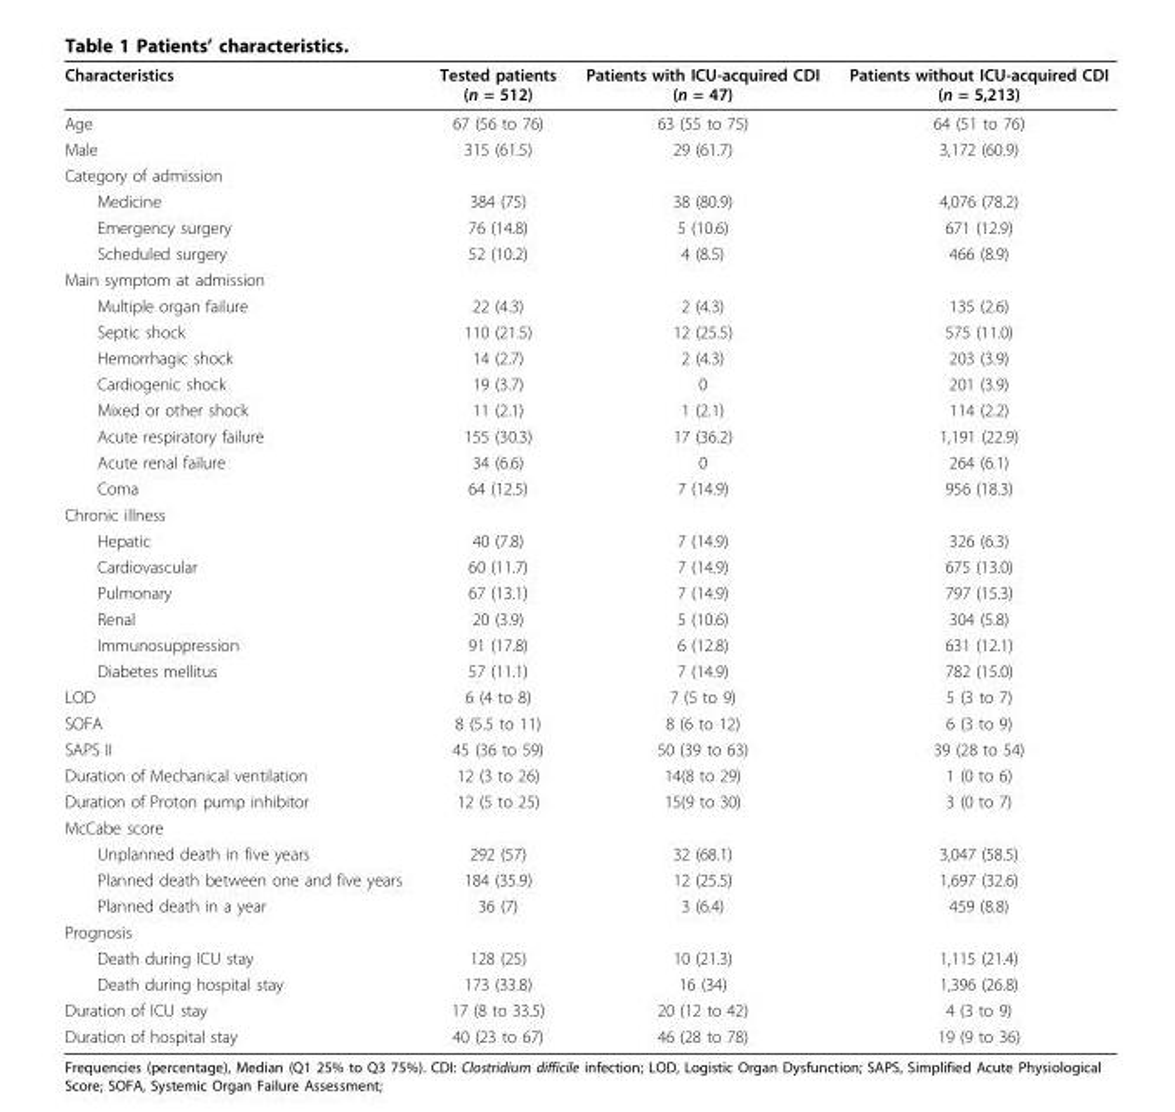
<table><thead><tr><td>Characteristics</td><td>Tested patients (n = 512)</td><td>Patients with ICU-acquired CDI (n = 47)</td><td>Patients without ICU-acquired CDI (n = 5,213)</td></tr></thead><tbody><tr><td>Age</td><td>67 (56 to 76)</td><td>63 (55 to 75)</td><td>64 (51 to 76)</td></tr><tr><td>Male</td><td>315 (61.5)</td><td>29 (61.7)</td><td>3,172 (60.9)</td></tr><tr><td colspan="4">Category of admission</td></tr><tr><td>Medicine</td><td>384 (75)</td><td>38 (80.9)</td><td>4,076 (78.2)</td></tr><tr><td>Emergency surgery</td><td>76 (14.8)</td><td>5 (10.6)</td><td>671 (12.9)</td></tr><tr><td>Scheduled surgery</td><td>52 (10.2)</td><td>4 (8.5)</td><td>466 (8.9)</td></tr><tr><td colspan="4">Main symptom at admission</td></tr><tr><td>Multiple organ failure</td><td>22 (4.3)</td><td>2 (4.3)</td><td>135 (2.6)</td></tr><tr><td>Septic shock</td><td>110 (21.5)</td><td>12 (25.5)</td><td>575 (11.0)</td></tr><tr><td>Hemorrhagic shock</td><td>14 (2.7)</td><td>2 (4.3)</td><td>203 (3.9)</td></tr><tr><td>Cardiogenic shock</td><td>19 (3.7)</td><td>0</td><td>201 (3.9)</td></tr><tr><td>Mixed or other shock</td><td>11 (2.1)</td><td>1 (2.1)</td><td>114 (2.2)</td></tr><tr><td>Acute respiratory failure</td><td>155 (30.3)</td><td>17 (36.2)</td><td>1,191 (22.9)</td></tr><tr><td>Acute renal failure</td><td>34 (6.6)</td><td>0</td><td>264 (6.1)</td></tr><tr><td>Coma</td><td>64 (12.5)</td><td>7 (14.9)</td><td>956 (18.3)</td></tr><tr><td colspan="4">Chronic illness</td></tr><tr><td>Hepatic</td><td>40 (7.8)</td><td>7 (14.9)</td><td>326 (6.3)</td></tr><tr><td>Cardiovascular</td><td>60 (11.7)</td><td>7 (14.9)</td><td>675 (13.0)</td></tr><tr><td>Pulmonary</td><td>67 (13.1)</td><td>7 (14.9)</td><td>797 (15.3)</td></tr><tr><td>Renal</td><td>20 (3.9)</td><td>5 (10.6)</td><td>304 (5.8)</td></tr><tr><td>Immunosuppression</td><td>91 (17.8)</td><td>6 (12.8)</td><td>631 (12.1)</td></tr><tr><td>Diabetes mellitus</td><td>57 (11.1)</td><td>7 (14.9)</td><td>782 (15.0)</td></tr><tr><td>LOD</td><td>6 (4 to 8)</td><td>7 (5 to 9)</td><td>5 (3 to 7)</td></tr><tr><td>SOFA</td><td>8 (5.5 to 11)</td><td>8 (6 to 12)</td><td>6 (3 to 9)</td></tr><tr><td>SAPS II</td><td>45 (36 to 59)</td><td>50 (39 to 63)</td><td>39 (28 to 54)</td></tr><tr><td>Duration of Mechanical ventilation</td><td>12 (3 to 26)</td><td>14(8 to 29)</td><td>1 (0 to 6)</td></tr><tr><td>Duration of Proton pump inhibitor</td><td>12 (5 to 25)</td><td>15(9 to 30)</td><td>3 (0 to 7)</td></tr><tr><td colspan="4">McCabe score</td></tr><tr><td>Unplanned death in five years</td><td>292 (57)</td><td>32 (68.1)</td><td>3,047 (58.5)</td></tr><tr><td>Planned death between one and five years</td><td>184 (35.9)</td><td>12 (25.5)</td><td>1,697 (32.6)</td></tr><tr><td>Planned death in a year</td><td>36 (7)</td><td>3 (6.4)</td><td>459 (8.8)</td></tr><tr><td colspan="4">Prognosis</td></tr><tr><td>Death during ICU stay</td><td>128 (25)</td><td>10 (21.3)</td><td>1,115 (21.4)</td></tr><tr><td>Death during hospital stay</td><td>173 (33.8)</td><td>16 (34)</td><td>1,396 (26.8)</td></tr><tr><td>Duration of ICU stay</td><td>17 (8 to 33.5)</td><td>20 (12 to 42)</td><td>4 (3 to 9)</td></tr><tr><td>Duration of hospital stay</td><td>40 (23 to 67)</td><td>46 (28 to 78)</td><td>19 (9 to 36)</td></tr></tbody></table>